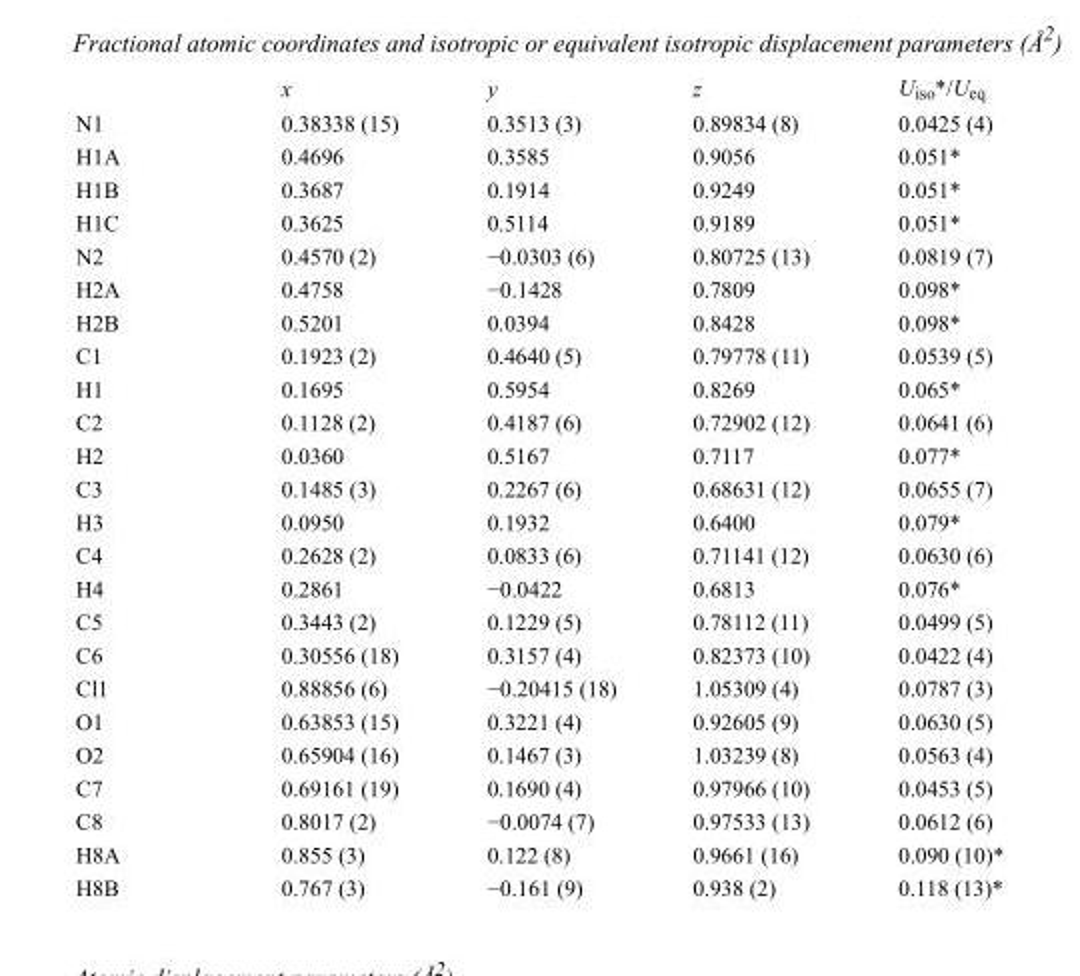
<table><thead><tr><td></td><td>x</td><td>y</td><td>z</td><td>U<sub>iso</sub>*/U<sub>eq</sub></td></tr></thead><tbody><tr><td>N1</td><td>0.38338 (15)</td><td>0.3513 (3)</td><td>0.89834 (8)</td><td>0.0425 (4)</td></tr><tr><td>H1A</td><td>0.4696</td><td>0.3585</td><td>0.9056</td><td>0.051*</td></tr><tr><td>H1B</td><td>0.3687</td><td>0.1914</td><td>0.9249</td><td>0.051*</td></tr><tr><td>H1C</td><td>0.3625</td><td>0.5114</td><td>0.9189</td><td>0.051*</td></tr><tr><td>N2</td><td>0.4570 (2)</td><td>−0.0303 (6)</td><td>0.80725 (13)</td><td>0.0819 (7)</td></tr><tr><td>H2A</td><td>0.4758</td><td>−0.1428</td><td>0.7809</td><td>0.098*</td></tr><tr><td>H2B</td><td>0.5201</td><td>0.0394</td><td>0.8428</td><td>0.098*</td></tr><tr><td>C1</td><td>0.1923 (2)</td><td>0.4640 (5)</td><td>0.79778 (11)</td><td>0.0539 (5)</td></tr><tr><td>H1</td><td>0.1695</td><td>0.5954</td><td>0.8269</td><td>0.065*</td></tr><tr><td>C2</td><td>0.1128 (2)</td><td>0.4187 (6)</td><td>0.72902 (12)</td><td>0.0641 (6)</td></tr><tr><td>H2</td><td>0.0360</td><td>0.5167</td><td>0.7117</td><td>0.077*</td></tr><tr><td>C3</td><td>0.1485 (3)</td><td>0.2267 (6)</td><td>0.68631 (12)</td><td>0.0655 (7)</td></tr><tr><td>H3</td><td>0.0950</td><td>0.1932</td><td>0.6400</td><td>0.079*</td></tr><tr><td>C4</td><td>0.2628 (2)</td><td>0.0833 (6)</td><td>0.71141 (12)</td><td>0.0630 (6)</td></tr><tr><td>H4</td><td>0.2861</td><td>−0.0422</td><td>0.6813</td><td>0.076*</td></tr><tr><td>C5</td><td>0.3443 (2)</td><td>0.1229 (5)</td><td>0.78112 (11)</td><td>0.0499 (5)</td></tr><tr><td>C6</td><td>0.30556 (18)</td><td>0.3157 (4)</td><td>0.82373 (10)</td><td>0.0422 (4)</td></tr><tr><td>Cl1</td><td>0.88856 (6)</td><td>−0.20415 (18)</td><td>1.05309 (4)</td><td>0.0787 (3)</td></tr><tr><td>O1</td><td>0.63853 (15)</td><td>0.3221 (4)</td><td>0.92605 (9)</td><td>0.0630 (5)</td></tr><tr><td>O2</td><td>0.65904 (16)</td><td>0.1467 (3)</td><td>1.03239 (8)</td><td>0.0563 (4)</td></tr><tr><td>C7</td><td>0.69161 (19)</td><td>0.1690 (4)</td><td>0.97966 (10)</td><td>0.0453 (5)</td></tr><tr><td>C8</td><td>0.8017 (2)</td><td>−0.0074 (7)</td><td>0.97533 (13)</td><td>0.0612 (6)</td></tr><tr><td>H8A</td><td>0.855 (3)</td><td>0.122 (8)</td><td>0.9661 (16)</td><td>0.090 (10)*</td></tr><tr><td>H8B</td><td>0.767 (3)</td><td>−0.161 (9)</td><td>0.938 (2)</td><td>0.118 (13)*</td></tr></tbody></table>